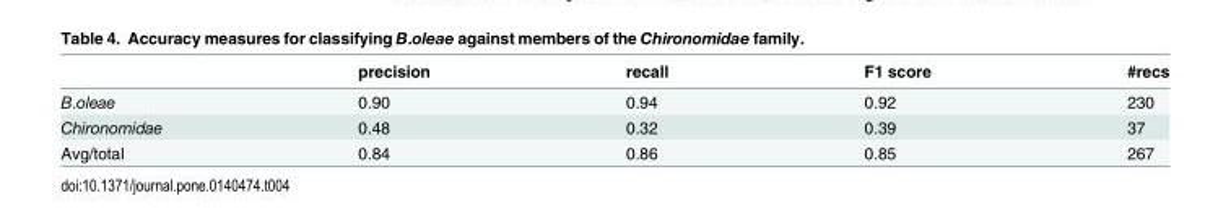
<table><thead><tr><td></td><td>precision</td><td>recall</td><td>F1 score</td><td>#recs</td></tr></thead><tbody><tr><td>B.oleae</td><td>0.90</td><td>0.94</td><td>0.92</td><td>230</td></tr><tr><td>Chironomidae</td><td>0.48</td><td>0.32</td><td>0.39</td><td>37</td></tr><tr><td>Avg/total</td><td>0.84</td><td>0.86</td><td>0.85</td><td>267</td></tr></tbody></table>